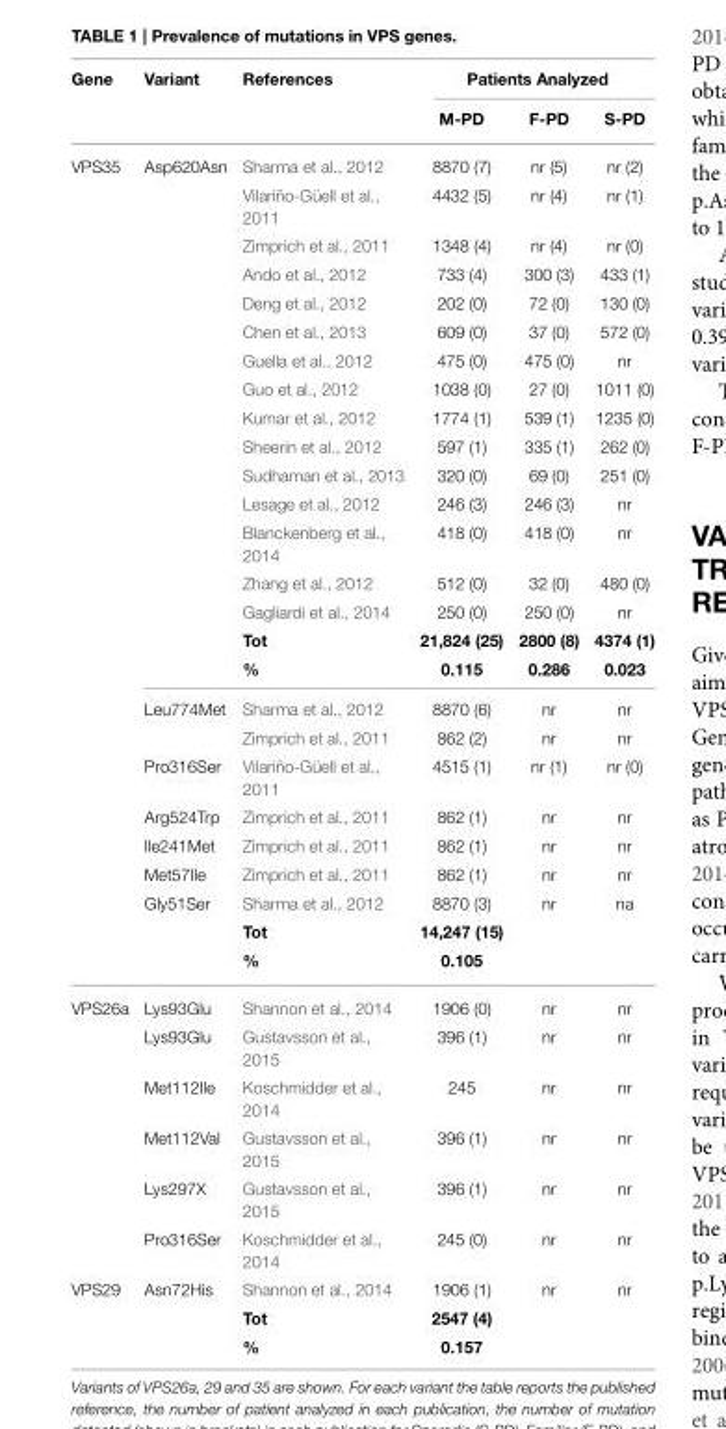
<table><thead><tr><td rowspan="2">Gene</td><td rowspan="2">Variant</td><td rowspan="2">References</td><td colspan="3">Patients Analyzed</td></tr><tr><td>M-PD</td><td>F-PD</td><td>S-PD</td></tr></thead><tbody><tr><td rowspan="26">VPS35</td><td>Asp620Asn</td><td>Sharma et al., 2012</td><td>8870 (7)</td><td>nr (5)</td><td>nr (2)</td></tr><tr><td></td><td>Vilariño-Güell et al., 2011</td><td>4432 (5)</td><td>nr (4)</td><td>nr (1)</td></tr><tr><td></td><td>Zimprich et al., 2011</td><td>1348 (4)</td><td>nr (4)</td><td>nr (0)</td></tr><tr><td></td><td>Ando et al., 2012</td><td>733 (4)</td><td>300 (3)</td><td>433 (1)</td></tr><tr><td></td><td>Deng et al., 2012</td><td>202 (0)</td><td>72 (0)</td><td>130 (0)</td></tr><tr><td></td><td>Chen et al., 2013</td><td>609 (0)</td><td>37 (0)</td><td>572 (0)</td></tr><tr><td></td><td>Guella et al., 2012</td><td>475 (0)</td><td>475 (0)</td><td>nr</td></tr><tr><td></td><td>Guo et al., 2012</td><td>1038 (0)</td><td>27 (0)</td><td>1011 (0)</td></tr><tr><td></td><td>Kumar et al., 2012</td><td>1774 (1)</td><td>539 (1)</td><td>1235 (0)</td></tr><tr><td></td><td>Sheerin et al., 2012</td><td>597 (1)</td><td>335 (1)</td><td>262 (0)</td></tr><tr><td></td><td>Sudhaman et al., 2013</td><td>320 (0)</td><td>69 (0)</td><td>251 (0)</td></tr><tr><td></td><td>Lesage et al., 2012</td><td>246 (3)</td><td>246 (3)</td><td>nr</td></tr><tr><td></td><td>Blanckenberg et al., 2014</td><td>418 (0)</td><td>418 (0)</td><td>nr</td></tr><tr><td></td><td>Zhang et al., 2012</td><td>512 (0)</td><td>32 (0)</td><td>480 (0)</td></tr><tr><td></td><td>Gagliardi et al., 2014</td><td>250 (0)</td><td>250 (0)</td><td>nr</td></tr><tr><td></td><td>Tot</td><td>21,824 (25)</td><td>2800 (8)</td><td>4374 (1)</td></tr><tr><td></td><td>%</td><td>0.115</td><td>0.286</td><td>0.023</td></tr><tr><td>Leu774Met</td><td>Sharma et al., 2012</td><td>8870 (6)</td><td>nr</td><td>nr</td></tr><tr><td></td><td>Zimprich et al., 2011</td><td>862 (2)</td><td>nr</td><td>nr</td></tr><tr><td>Pro316Ser</td><td>Vilariño-Güell et al., 2011</td><td>4515 (1)</td><td>nr (1)</td><td>nr (0)</td></tr><tr><td>Arg524Trp</td><td>Zimprich et al., 2011</td><td>862 (1)</td><td>nr</td><td>nr</td></tr><tr><td>Ile241Met</td><td>Zimprich et al., 2011</td><td>862 (1)</td><td>nr</td><td>nr</td></tr><tr><td>Met57Ile</td><td>Zimprich et al., 2011</td><td>862 (1)</td><td>nr</td><td>nr</td></tr><tr><td>Gly51Ser</td><td>Sharma et al., 2012</td><td>8870 (3)</td><td>nr</td><td>na</td></tr><tr><td></td><td>Tot</td><td>14,247 (15)</td><td></td><td></td></tr><tr><td></td><td>%</td><td>0.105</td><td></td><td></td></tr><tr><td rowspan="6">VPS26a</td><td>Lys93Glu</td><td>Shannon et al., 2014</td><td>1906 (0)</td><td>nr</td><td>nr</td></tr><tr><td>Lys93Glu</td><td>Gustavsson et al., 2015</td><td>396 (1)</td><td>nr</td><td>nr</td></tr><tr><td>Met112Ile</td><td>Koschmidder et al., 2014</td><td>245</td><td>nr</td><td>nr</td></tr><tr><td>Met112Val</td><td>Gustavsson et al., 2015</td><td>396 (1)</td><td>nr</td><td>nr</td></tr><tr><td>Lys297X</td><td>Gustavsson et al., 2015</td><td>396 (1)</td><td>nr</td><td>nr</td></tr><tr><td>Pro316Ser</td><td>Koschmidder et al., 2014</td><td>245 (0)</td><td>nr</td><td>nr</td></tr><tr><td rowspan="3">VPS29</td><td>Asn72His</td><td>Shannon et al., 2014</td><td>1906 (1)</td><td>nr</td><td>nr</td></tr><tr><td></td><td>Tot</td><td>2547 (4)</td><td></td><td></td></tr><tr><td></td><td>%</td><td>0.157</td><td></td><td></td></tr></tbody></table>